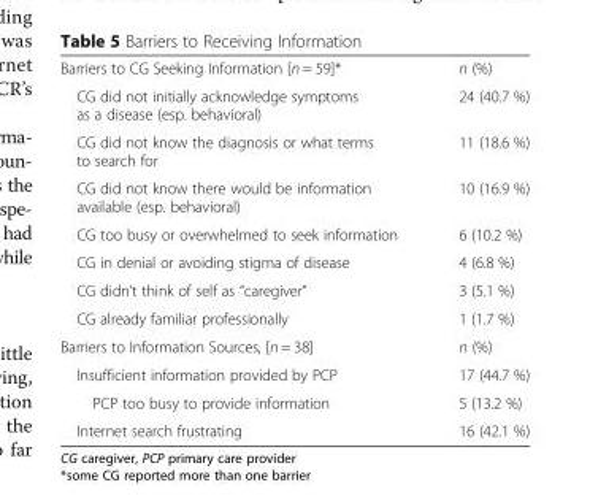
<table><tbody><tr><td>Barriers to CG Seeking Information [n = 59]*</td><td>n (%)</td></tr><tr><td>CG did not initially acknowledge symptoms as a disease (esp. behavioral)</td><td>24 (40.7 %)</td></tr><tr><td>CG did not know the diagnosis or what terms to search for</td><td>11 (18.6 %)</td></tr><tr><td>CG did not know there would be information available (esp. behavioral)</td><td>10 (16.9 %)</td></tr><tr><td>CG too busy or overwhelmed to seek information</td><td>6 (10.2 %)</td></tr><tr><td>CG in denial or avoiding stigma of disease</td><td>4 (6.8 %)</td></tr><tr><td>CG didn’t think of self as “caregiver”</td><td>3 (5.1 %)</td></tr><tr><td>CG already familiar professionally</td><td>1 (1.7 %)</td></tr><tr><td>Barriers to Information Sources, [n = 38]</td><td>n (%)</td></tr><tr><td>Insufficient information provided by PCP</td><td>17 (44.7 %)</td></tr><tr><td>PCP too busy to provide information</td><td>5 (13.2 %)</td></tr><tr><td>Internet search frustrating</td><td>16 (42.1 %)</td></tr></tbody></table>